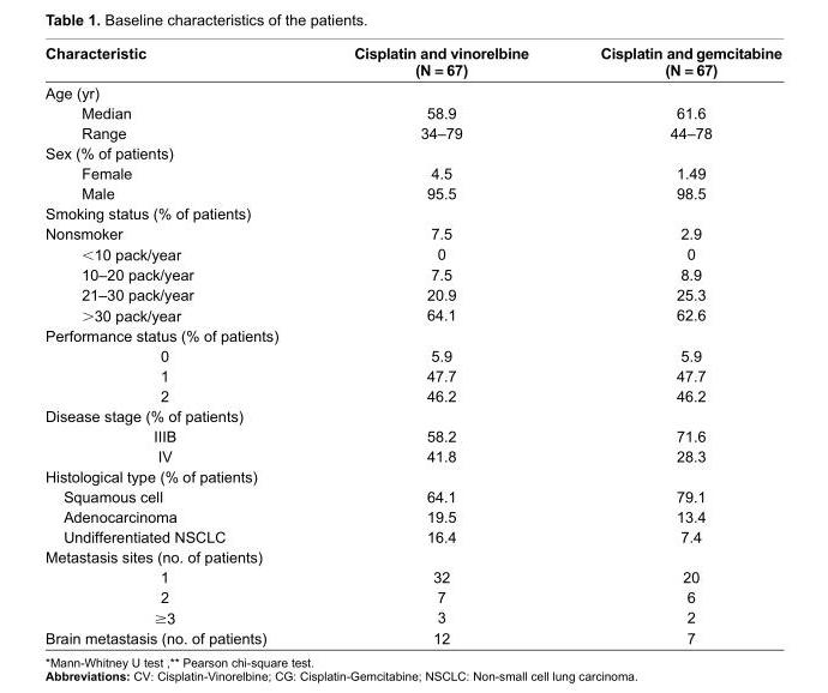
<table><thead><tr><td>Characteristic</td><td>Cisplatin and vinorelbine (N = 67)</td><td>Cisplatin and gemcitabine (N = 67)</td></tr></thead><tbody><tr><td colspan="3">Age (yr)</td></tr><tr><td>Median</td><td>58.9</td><td>61.6</td></tr><tr><td>Range</td><td>34–79</td><td>44–78</td></tr><tr><td colspan="3">Sex (% of patients)</td></tr><tr><td>Female</td><td>4.5</td><td>1.49</td></tr><tr><td>Male</td><td>95.5</td><td>98.5</td></tr><tr><td colspan="3">Smoking status (% of patients)</td></tr><tr><td>Nonsmoker</td><td>7.5</td><td>2.9</td></tr><tr><td>&lt;10 pack/year</td><td>0</td><td>0</td></tr><tr><td>10–20 pack/year</td><td>7.5</td><td>8.9</td></tr><tr><td>21–30 pack/year</td><td>20.9</td><td>25.3</td></tr><tr><td>&gt;30 pack/year</td><td>64.1</td><td>62.6</td></tr><tr><td colspan="3">Performance status (% of patients)</td></tr><tr><td>0</td><td>5.9</td><td>5.9</td></tr><tr><td>1</td><td>47.7</td><td>47.7</td></tr><tr><td>2</td><td>46.2</td><td>46.2</td></tr><tr><td colspan="3">Disease stage (% of patients)</td></tr><tr><td>IIIB</td><td>58.2</td><td>71.6</td></tr><tr><td>IV</td><td>41.8</td><td>28.3</td></tr><tr><td colspan="3">Histological type (% of patients)</td></tr><tr><td>Squamous cell</td><td>64.1</td><td>79.1</td></tr><tr><td>Adenocarcinoma</td><td>19.5</td><td>13.4</td></tr><tr><td>Undifferentiated NSCLC</td><td>16.4</td><td>7.4</td></tr><tr><td colspan="3">Metastasis sites (no. of patients)</td></tr><tr><td>1</td><td>32</td><td>20</td></tr><tr><td>2</td><td>7</td><td>6</td></tr><tr><td>≥3</td><td>3</td><td>2</td></tr><tr><td>Brain metastasis (no. of patients)</td><td>12</td><td>7</td></tr></tbody></table>